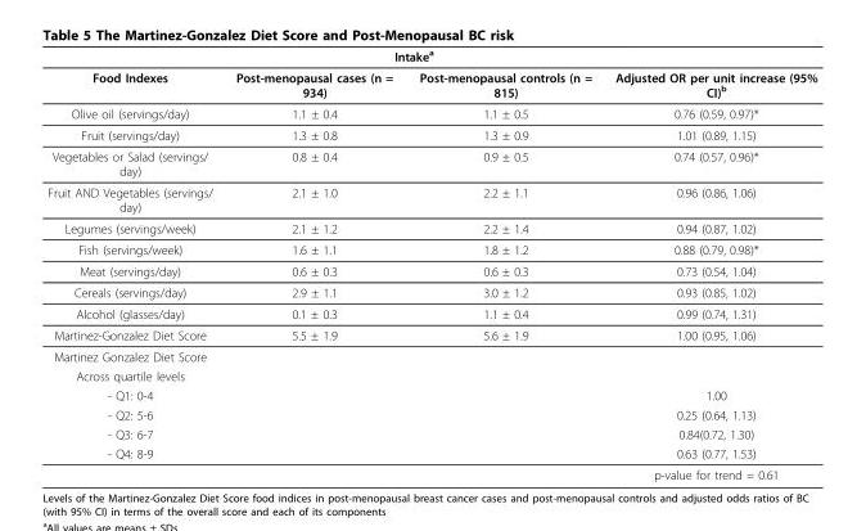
<table><thead><tr><td rowspan="2">Food Indexes</td><td colspan="2">Intake<sup>a</sup></td><td rowspan="2">Adjusted OR per unit increase (95% CI)<sup>b</sup></td></tr><tr><td>Post-menopausal cases (n = 934)</td><td>Post-menopausal controls (n = 815)</td></tr></thead><tbody><tr><td>Olive oil (servings/day)</td><td>1.1 ± 0.4</td><td>1.1 ± 0.5</td><td>0.76 (0.59, 0.97)*</td></tr><tr><td>Fruit (servings/day)</td><td>1.3 ± 0.8</td><td>1.3 ± 0.9</td><td>1.01 (0.89, 1.15)</td></tr><tr><td>Vegetables or Salad (servings/ day)</td><td>0.8 ± 0.4</td><td>0.9 ± 0.5</td><td>0.74 (0.57, 0.96)*</td></tr><tr><td>Fruit AND Vegetables (servings/ day)</td><td>2.1 ± 1.0</td><td>2.2 ± 1.1</td><td>0.96 (0.86, 1.06)</td></tr><tr><td>Legumes (servings/week)</td><td>2.1 ± 1.2</td><td>2.2 ± 1.4</td><td>0.94 (0.87, 1.02)</td></tr><tr><td>Fish (servings/week)</td><td>1.6 ± 1.1</td><td>1.8 ± 1.2</td><td>0.88 (0.79, 0.98)*</td></tr><tr><td>Meat (servings/day)</td><td>0.6 ± 0.3</td><td>0.6 ± 0.3</td><td>0.73 (0.54, 1.04)</td></tr><tr><td>Cereals (servings/day)</td><td>2.9 ± 1.1</td><td>3.0 ± 1.2</td><td>0.93 (0.85, 1.02)</td></tr><tr><td>Alcohol (glasses/day)</td><td>0.1 ± 0.3</td><td>1.1 ± 0.4</td><td>0.99 (0.74, 1.31)</td></tr><tr><td>Martinez-Gonzalez Diet Score</td><td>5.5 ± 1.9</td><td>5.6 ± 1.9</td><td>1.00 (0.95, 1.06)</td></tr><tr><td colspan="4">Martinez Gonzalez Diet Score</td></tr><tr><td colspan="4">Across quartile levels</td></tr><tr><td>- Q1: 0-4</td><td></td><td></td><td>1.00</td></tr><tr><td>- Q2: 5-6</td><td></td><td></td><td>0.25 (0.64, 1.13)</td></tr><tr><td>- Q3: 6-7</td><td></td><td></td><td>0.84(0.72, 1.30)</td></tr><tr><td rowspan="2">- Q4: 8-9</td><td></td><td></td><td>0.63 (0.77, 1.53)</td></tr><tr><td></td><td></td><td>p-value for trend = 0.61</td></tr></tbody></table>